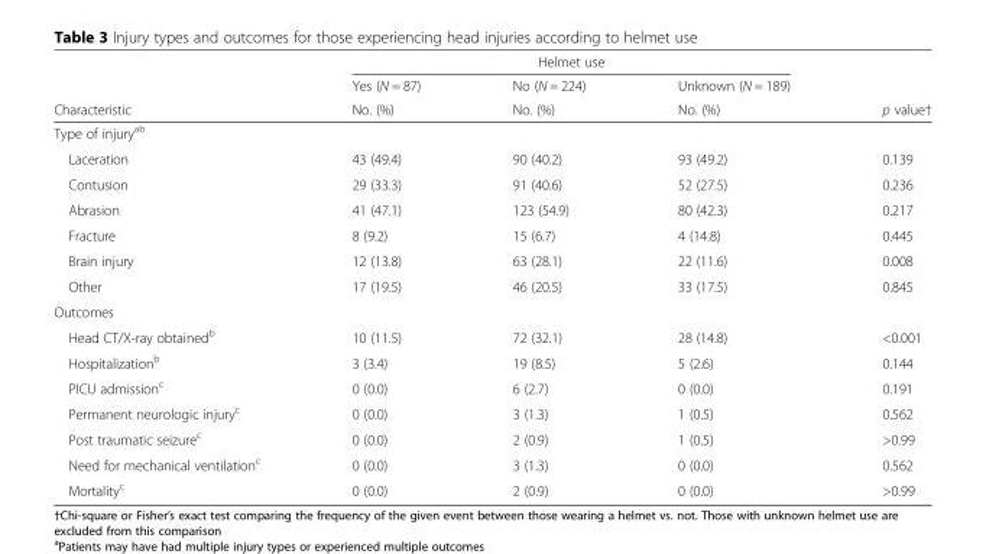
<table><thead><tr><td rowspan="3">Characteristic</td><td colspan="3">Helmet use</td><td rowspan="3">p value†</td></tr><tr><td rowspan="2">Yes (N = 87) No. (%)</td><td rowspan="2">No (N = 224) No. (%)</td><td rowspan="2">Unknown (N = 189) No. (%)</td></tr><tr></tr></thead><tbody><tr><td colspan="5">Type of injury<sup>ab</sup></td></tr><tr><td>Laceration</td><td>43 (49.4)</td><td>90 (40.2)</td><td>93 (49.2)</td><td>0.139</td></tr><tr><td>Contusion</td><td>29 (33.3)</td><td>91 (40.6)</td><td>52 (27.5)</td><td>0.236</td></tr><tr><td>Abrasion</td><td>41 (47.1)</td><td>123 (54.9)</td><td>80 (42.3)</td><td>0.217</td></tr><tr><td>Fracture</td><td>8 (9.2)</td><td>15 (6.7)</td><td>4 (14.8)</td><td>0.445</td></tr><tr><td>Brain injury</td><td>12 (13.8)</td><td>63 (28.1)</td><td>22 (11.6)</td><td>0.008</td></tr><tr><td>Other</td><td>17 (19.5)</td><td>46 (20.5)</td><td>33 (17.5)</td><td>0.845</td></tr><tr><td colspan="5">Outcomes</td></tr><tr><td>Head CT/X-ray obtained<sup>b</sup></td><td>10 (11.5)</td><td>72 (32.1)</td><td>28 (14.8)</td><td>&lt;0.001</td></tr><tr><td>Hospitalization<sup>b</sup></td><td>3 (3.4)</td><td>19 (8.5)</td><td>5 (2.6)</td><td>0.144</td></tr><tr><td>PICU admission<sup>c</sup></td><td>0 (0.0)</td><td>6 (2.7)</td><td>0 (0.0)</td><td>0.191</td></tr><tr><td>Permanent neurologic injury<sup>c</sup></td><td>0 (0.0)</td><td>3 (1.3)</td><td>1 (0.5)</td><td>0.562</td></tr><tr><td>Post traumatic seizure<sup>c</sup></td><td>0 (0.0)</td><td>2 (0.9)</td><td>1 (0.5)</td><td>&gt;0.99</td></tr><tr><td>Need for mechanical ventilation<sup>c</sup></td><td>0 (0.0)</td><td>3 (1.3)</td><td>0 (0.0)</td><td>0.562</td></tr><tr><td>Mortality<sup>c</sup></td><td>0 (0.0)</td><td>2 (0.9)</td><td>0 (0.0)</td><td>&gt;0.99</td></tr></tbody></table>